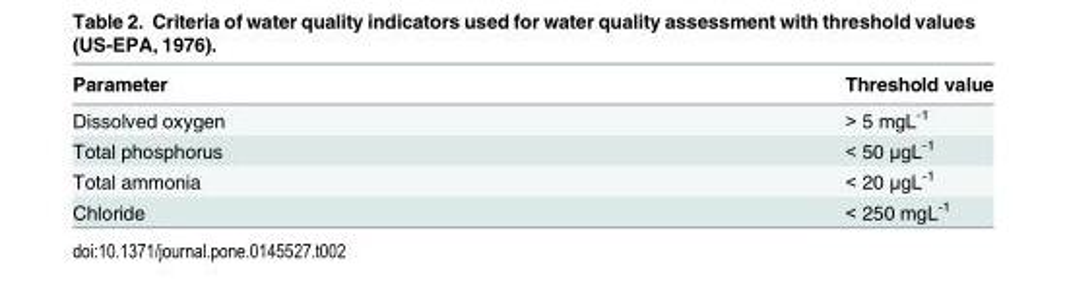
<table><thead><tr><td>Parameter</td><td>Threshold value</td></tr></thead><tbody><tr><td>Dissolved oxygen</td><td>&gt; 5 mgL<sup>-1</sup></td></tr><tr><td>Total phosphorus</td><td>&lt; 50 μgL<sup>-1</sup></td></tr><tr><td>Total ammonia</td><td>&lt; 20 μgL<sup>-1</sup></td></tr><tr><td>Chloride</td><td>&lt; 250 mgL<sup>-1</sup></td></tr></tbody></table>